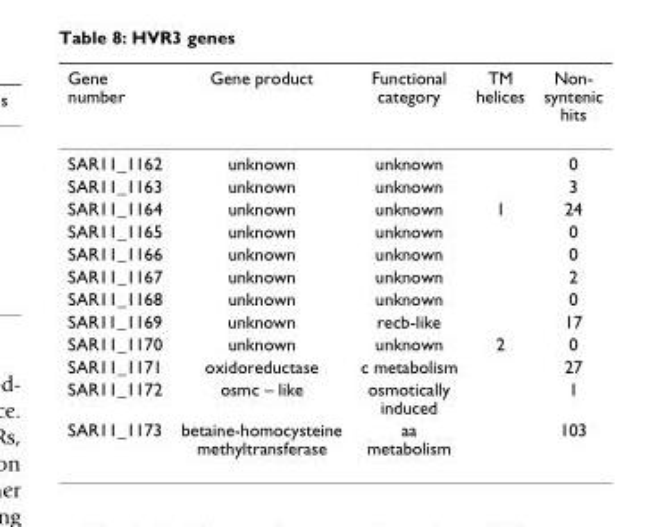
<table><thead><tr><td>Gene number</td><td>Gene product</td><td>Functional category</td><td>TM helices</td><td>Non- syntenic hits</td></tr></thead><tbody><tr><td>SAR11_1162</td><td>unknown</td><td>unknown</td><td></td><td>0</td></tr><tr><td>SAR11_1163</td><td>unknown</td><td>unknown</td><td></td><td>3</td></tr><tr><td>SAR11_1164</td><td>unknown</td><td>unknown</td><td>1</td><td>24</td></tr><tr><td>SAR11_1165</td><td>unknown</td><td>unknown</td><td></td><td>0</td></tr><tr><td>SAR11_1166</td><td>unknown</td><td>unknown</td><td></td><td>0</td></tr><tr><td>SAR11_1167</td><td>unknown</td><td>unknown</td><td></td><td>2</td></tr><tr><td>SAR11_1168</td><td>unknown</td><td>unknown</td><td></td><td>0</td></tr><tr><td>SAR11_1169</td><td>unknown</td><td>recb-like</td><td></td><td>17</td></tr><tr><td>SAR11_1170</td><td>unknown</td><td>unknown</td><td>2</td><td>0</td></tr><tr><td>SAR11_1171</td><td>oxidoreductase</td><td>c metabolism</td><td></td><td>27</td></tr><tr><td>SAR11_1172</td><td>osmc – like</td><td>osmotically induced</td><td></td><td>1</td></tr><tr><td>SAR11_1173</td><td>betaine-homocysteine methyltransferase</td><td>aa metabolism</td><td></td><td>103</td></tr></tbody></table>